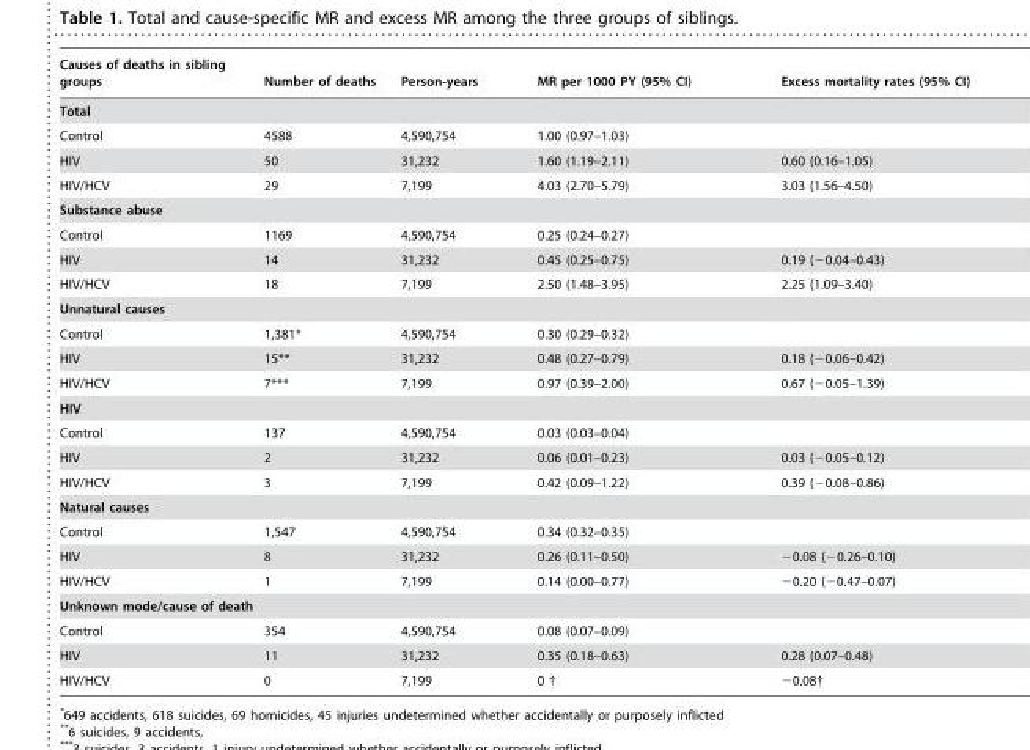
<table><thead><tr><td>Causes of deaths in sibling groups</td><td>Number of deaths</td><td>Person-years</td><td>MR per 1000 PY (95% CI)</td><td>Excess mortality rates (95% CI)</td></tr></thead><tbody><tr><td colspan="5">Total</td></tr><tr><td>Control</td><td>4588</td><td>4,590,754</td><td>1.00 (0.97–1.03)</td><td></td></tr><tr><td>HIV</td><td>50</td><td>31,232</td><td>1.60 (1.19–2.11)</td><td>0.60 (0.16–1.05)</td></tr><tr><td>HIV/HCV</td><td>29</td><td>7,199</td><td>4.03 (2.70–5.79)</td><td>3.03 (1.56–4.50)</td></tr><tr><td colspan="5">Substance abuse</td></tr><tr><td>Control</td><td>1169</td><td>4,590,754</td><td>0.25 (0.24–0.27)</td><td></td></tr><tr><td>HIV</td><td>14</td><td>31,232</td><td>0.45 (0.25–0.75)</td><td>0.19 (−0.04–0.43)</td></tr><tr><td>HIV/HCV</td><td>18</td><td>7,199</td><td>2.50 (1.48–3.95)</td><td>2.25 (1.09–3.40)</td></tr><tr><td colspan="5">Unnatural causes</td></tr><tr><td>Control</td><td>1,381*</td><td>4,590,754</td><td>0.30 (0.29–0.32)</td><td></td></tr><tr><td>HIV</td><td>15**</td><td>31,232</td><td>0.48 (0.27–0.79)</td><td>0.18 (−0.06–0.42)</td></tr><tr><td>HIV/HCV</td><td>7***</td><td>7,199</td><td>0.97 (0.39–2.00)</td><td>0.67 (−0.05–1.39)</td></tr><tr><td colspan="5">HIV</td></tr><tr><td>Control</td><td>137</td><td>4,590,754</td><td>0.03 (0.03–0.04)</td><td></td></tr><tr><td>HIV</td><td>2</td><td>31,232</td><td>0.06 (0.01–0.23)</td><td>0.03 (−0.05–0.12)</td></tr><tr><td>HIV/HCV</td><td>3</td><td>7,199</td><td>0.42 (0.09–1.22)</td><td>0.39 (−0.08–0.86)</td></tr><tr><td colspan="5">Natural causes</td></tr><tr><td>Control</td><td>1,547</td><td>4,590,754</td><td>0.34 (0.32–0.35)</td><td></td></tr><tr><td>HIV</td><td>8</td><td>31,232</td><td>0.26 (0.11–0.50)</td><td>−0.08 (−0.26–0.10)</td></tr><tr><td>HIV/HCV</td><td>1</td><td>7,199</td><td>0.14 (0.00–0.77)</td><td>−0.20 (−0.47–0.07)</td></tr><tr><td colspan="5">Unknown mode/cause of death</td></tr><tr><td>Control</td><td>354</td><td>4,590,754</td><td>0.08 (0.07–0.09)</td><td></td></tr><tr><td>HIV</td><td>11</td><td>31,232</td><td>0.35 (0.18–0.63)</td><td>0.28 (0.07–0.48)</td></tr><tr><td>HIV/HCV</td><td>0</td><td>7,199</td><td>0 †</td><td>−0.08†</td></tr></tbody></table>